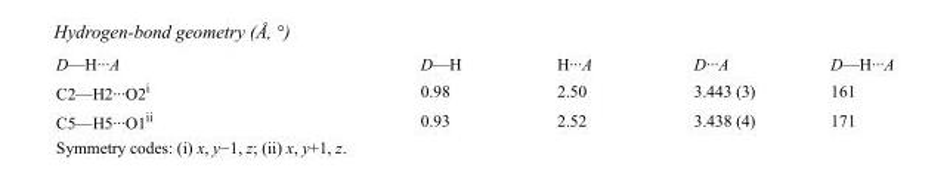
<table><tbody><tr><td>D—H···A</td><td>D—H</td><td>H···A</td><td>D···A</td><td>D—H···A</td></tr><tr><td>C2—H2···O2<sup>i</sup></td><td>0.98</td><td>2.50</td><td>3.443 (3)</td><td>161</td></tr><tr><td>C5—H5···O1<sup>ii</sup></td><td>0.93</td><td>2.52</td><td>3.438 (4)</td><td>171</td></tr></tbody></table>